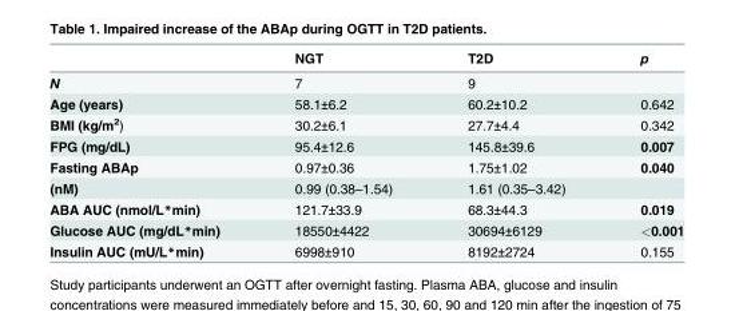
<table><thead><tr><td></td><td>NGT</td><td>T2D</td><td>p</td></tr></thead><tbody><tr><td>N</td><td>7</td><td>9</td><td></td></tr><tr><td>Age (years)</td><td>58.1±6.2</td><td>60.2±10.2</td><td>0.642</td></tr><tr><td>BMI (kg/m<sup>2</sup>)</td><td>30.2±6.1</td><td>27.7±4.4</td><td>0.342</td></tr><tr><td>FPG (mg/dL)</td><td>95.4±12.6</td><td>145.8±39.6</td><td>0.007</td></tr><tr><td>Fasting ABAp</td><td>0.97±0.36</td><td>1.75±1.02</td><td>0.040</td></tr><tr><td>(nM)</td><td>0.99 (0.38–1.54)</td><td>1.61 (0.35–3.42)</td><td></td></tr><tr><td>ABA AUC (nmol/L*min)</td><td>121.7±33.9</td><td>68.3±44.3</td><td>0.019</td></tr><tr><td>Glucose AUC (mg/dL*min)</td><td>18550±4422</td><td>30694±6129</td><td>&lt;0.001</td></tr><tr><td>Insulin AUC (mU/L*min)</td><td>6998±910</td><td>8192±2724</td><td>0.155</td></tr></tbody></table>